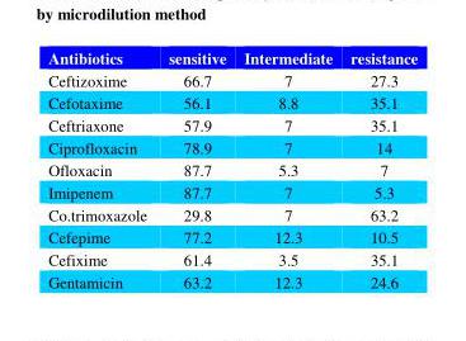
<table><thead><tr><td>Antibiotics</td><td>sensitive</td><td>Intermediate</td><td>resistance</td></tr></thead><tbody><tr><td>Ceftizoxime</td><td>66.7</td><td>7</td><td>27.3</td></tr><tr><td>Cefotaxime</td><td>56.1</td><td>8.8</td><td>35.1</td></tr><tr><td>Ceftriaxone</td><td>57.9</td><td>7</td><td>35.1</td></tr><tr><td>Ciprofloxacin</td><td>78.9</td><td>7</td><td>14</td></tr><tr><td>Ofloxacin</td><td>87.7</td><td>5.3</td><td>7</td></tr><tr><td>Imipenem</td><td>87.7</td><td>7</td><td>5.3</td></tr><tr><td>Co.trimoxazole</td><td>29.8</td><td>7</td><td>63.2</td></tr><tr><td>Cefepime</td><td>77.2</td><td>12.3</td><td>10.5</td></tr><tr><td>Cefixime</td><td>61.4</td><td>3.5</td><td>35.1</td></tr><tr><td>Gentamicin</td><td>63.2</td><td>12.3</td><td>24.6</td></tr></tbody></table>